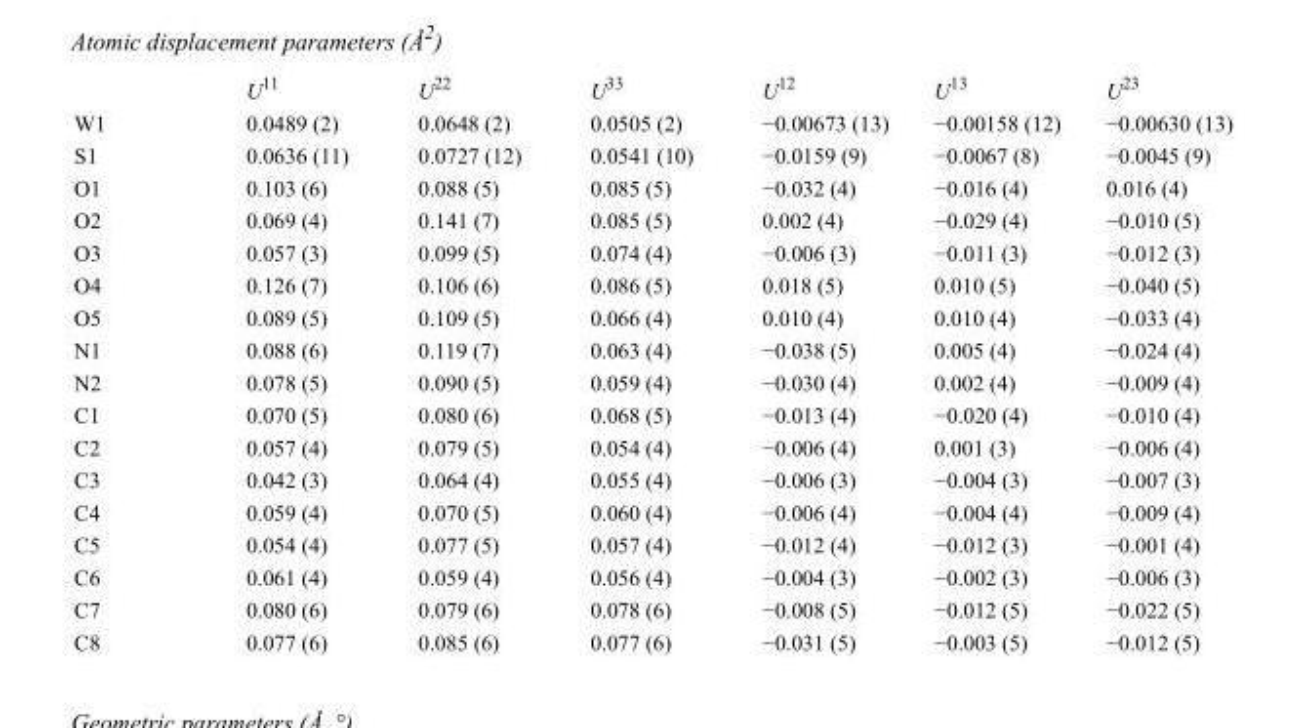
<table><thead><tr><td></td><td>U<sup>11</sup></td><td>U<sup>22</sup></td><td>U<sup>33</sup></td><td>U<sup>12</sup></td><td>U<sup>13</sup></td><td>U<sup>23</sup></td></tr></thead><tbody><tr><td>W1</td><td>0.0489 (2)</td><td>0.0648 (2)</td><td>0.0505 (2)</td><td>−0.00673 (13)</td><td>−0.00158 (12)</td><td>−0.00630 (13)</td></tr><tr><td>S1</td><td>0.0636 (11)</td><td>0.0727 (12)</td><td>0.0541 (10)</td><td>−0.0159 (9)</td><td>−0.0067 (8)</td><td>−0.0045 (9)</td></tr><tr><td>O1</td><td>0.103 (6)</td><td>0.088 (5)</td><td>0.085 (5)</td><td>−0.032 (4)</td><td>−0.016 (4)</td><td>0.016 (4)</td></tr><tr><td>O2</td><td>0.069 (4)</td><td>0.141 (7)</td><td>0.085 (5)</td><td>0.002 (4)</td><td>−0.029 (4)</td><td>−0.010 (5)</td></tr><tr><td>O3</td><td>0.057 (3)</td><td>0.099 (5)</td><td>0.074 (4)</td><td>−0.006 (3)</td><td>−0.011 (3)</td><td>−0.012 (3)</td></tr><tr><td>O4</td><td>0.126 (7)</td><td>0.106 (6)</td><td>0.086 (5)</td><td>0.018 (5)</td><td>0.010 (5)</td><td>−0.040 (5)</td></tr><tr><td>O5</td><td>0.089 (5)</td><td>0.109 (5)</td><td>0.066 (4)</td><td>0.010 (4)</td><td>0.010 (4)</td><td>−0.033 (4)</td></tr><tr><td>N1</td><td>0.088 (6)</td><td>0.119 (7)</td><td>0.063 (4)</td><td>−0.038 (5)</td><td>0.005 (4)</td><td>−0.024 (4)</td></tr><tr><td>N2</td><td>0.078 (5)</td><td>0.090 (5)</td><td>0.059 (4)</td><td>−0.030 (4)</td><td>0.002 (4)</td><td>−0.009 (4)</td></tr><tr><td>C1</td><td>0.070 (5)</td><td>0.080 (6)</td><td>0.068 (5)</td><td>−0.013 (4)</td><td>−0.020 (4)</td><td>−0.010 (4)</td></tr><tr><td>C2</td><td>0.057 (4)</td><td>0.079 (5)</td><td>0.054 (4)</td><td>−0.006 (4)</td><td>0.001 (3)</td><td>−0.006 (4)</td></tr><tr><td>C3</td><td>0.042 (3)</td><td>0.064 (4)</td><td>0.055 (4)</td><td>−0.006 (3)</td><td>−0.004 (3)</td><td>−0.007 (3)</td></tr><tr><td>C4</td><td>0.059 (4)</td><td>0.070 (5)</td><td>0.060 (4)</td><td>−0.006 (4)</td><td>−0.004 (4)</td><td>−0.009 (4)</td></tr><tr><td>C5</td><td>0.054 (4)</td><td>0.077 (5)</td><td>0.057 (4)</td><td>−0.012 (4)</td><td>−0.012 (3)</td><td>−0.001 (4)</td></tr><tr><td>C6</td><td>0.061 (4)</td><td>0.059 (4)</td><td>0.056 (4)</td><td>−0.004 (3)</td><td>−0.002 (3)</td><td>−0.006 (3)</td></tr><tr><td>C7</td><td>0.080 (6)</td><td>0.079 (6)</td><td>0.078 (6)</td><td>−0.008 (5)</td><td>−0.012 (5)</td><td>−0.022 (5)</td></tr><tr><td>C8</td><td>0.077 (6)</td><td>0.085 (6)</td><td>0.077 (6)</td><td>−0.031 (5)</td><td>−0.003 (5)</td><td>−0.012 (5)</td></tr></tbody></table>